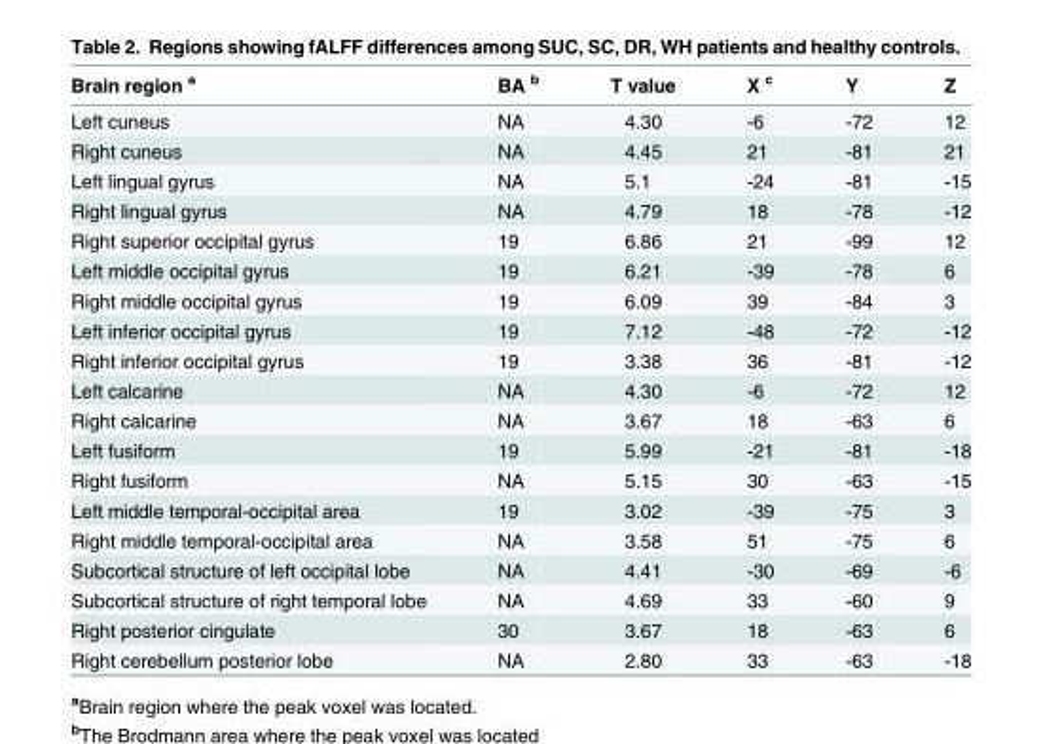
<table><thead><tr><td>Brain region <sup>a</sup></td><td>BA <sup>b</sup></td><td>T value</td><td>X <sup>c</sup></td><td>Y</td><td>Z</td></tr></thead><tbody><tr><td>Left cuneus</td><td>NA</td><td>4.30</td><td>-6</td><td>-72</td><td>12</td></tr><tr><td>Right cuneus</td><td>NA</td><td>4.45</td><td>21</td><td>-81</td><td>21</td></tr><tr><td>Left lingual gyrus</td><td>NA</td><td>5.1</td><td>-24</td><td>-81</td><td>-15</td></tr><tr><td>Right lingual gyrus</td><td>NA</td><td>4.79</td><td>18</td><td>-78</td><td>-12</td></tr><tr><td>Right superior occipital gyrus</td><td>19</td><td>6.86</td><td>21</td><td>-99</td><td>12</td></tr><tr><td>Left middle occipital gyrus</td><td>19</td><td>6.21</td><td>-39</td><td>-78</td><td>6</td></tr><tr><td>Right middle occipital gyrus</td><td>19</td><td>6.09</td><td>39</td><td>-84</td><td>3</td></tr><tr><td>Left inferior occipital gyrus</td><td>19</td><td>7.12</td><td>-48</td><td>-72</td><td>-12</td></tr><tr><td>Right inferior occipital gyrus</td><td>19</td><td>3.38</td><td>36</td><td>-81</td><td>-12</td></tr><tr><td>Left calcarine</td><td>NA</td><td>4.30</td><td>-6</td><td>-72</td><td>12</td></tr><tr><td>Right calcarine</td><td>NA</td><td>3.67</td><td>18</td><td>-63</td><td>6</td></tr><tr><td>Left fusiform</td><td>19</td><td>5.99</td><td>-21</td><td>-81</td><td>-18</td></tr><tr><td>Right fusiform</td><td>NA</td><td>5.15</td><td>30</td><td>-63</td><td>-15</td></tr><tr><td>Left middle temporal-occipital area</td><td>19</td><td>3.02</td><td>-39</td><td>-75</td><td>3</td></tr><tr><td>Right middle temporal-occipital area</td><td>NA</td><td>3.58</td><td>51</td><td>-75</td><td>6</td></tr><tr><td>Subcortical structure of left occipital lobe</td><td>NA</td><td>4.41</td><td>-30</td><td>-69</td><td>-6</td></tr><tr><td>Subcortical structure of right temporal lobe</td><td>NA</td><td>4.69</td><td>33</td><td>-60</td><td>9</td></tr><tr><td>Right posterior cingulate</td><td>30</td><td>3.67</td><td>18</td><td>-63</td><td>6</td></tr><tr><td>Right cerebellum posterior lobe</td><td>NA</td><td>2.80</td><td>33</td><td>-63</td><td>-18</td></tr></tbody></table>